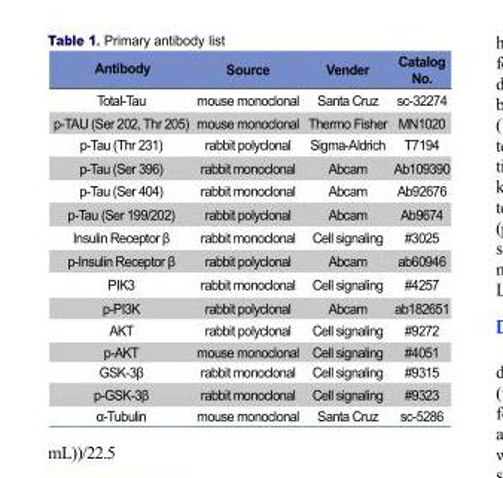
<table><thead><tr><td>Antibody</td><td>Source</td><td>Vender</td><td>Catalog No.</td></tr></thead><tbody><tr><td>Total-Tau</td><td>mouse monoclonal</td><td>Santa Cruz</td><td>sc-32274</td></tr><tr><td>p-TAU (Ser 202, Thr 205)</td><td>mouse monoclonal</td><td>Thermo Fisher</td><td>MN1020</td></tr><tr><td>p-Tau (Thr 231)</td><td>rabbit polyclonal</td><td>Sigma-Aldrich</td><td>T7194</td></tr><tr><td>p-Tau (Ser 396)</td><td>rabbit monoclonal</td><td>Abcam</td><td>Ab109390</td></tr><tr><td>p-Tau (Ser 404)</td><td>rabbit monoclonal</td><td>Abcam</td><td>Ab92676</td></tr><tr><td>p-Tau (Ser 199/202)</td><td>rabbit polyclonal</td><td>Abcam</td><td>Ab9674</td></tr><tr><td>Insulin Receptor β</td><td>rabbit monoclonal</td><td>Cell signaling</td><td>#3025</td></tr><tr><td>p-Insulin Receptor β</td><td>rabbit polyclonal</td><td>Abcam</td><td>ab60946</td></tr><tr><td>PIK3</td><td>rabbit monoclonal</td><td>Cell signaling</td><td>#4257</td></tr><tr><td>p-PI3K</td><td>rabbit polyclonal</td><td>Abcam</td><td>ab182651</td></tr><tr><td>AKT</td><td>rabbit polyclonal</td><td>Cell signaling</td><td>#9272</td></tr><tr><td>p-AKT</td><td>mouse monoclonal</td><td>Cell signaling</td><td>#4051</td></tr><tr><td>GSK-3β</td><td>rabbit monoclonal</td><td>Cell signaling</td><td>#9315</td></tr><tr><td>p-GSK-3β</td><td>rabbit monoclonal</td><td>Cell signaling</td><td>#9323</td></tr><tr><td>α-Tubulin</td><td>mouse monoclonal</td><td>Santa Cruz</td><td>sc-5286</td></tr></tbody></table>